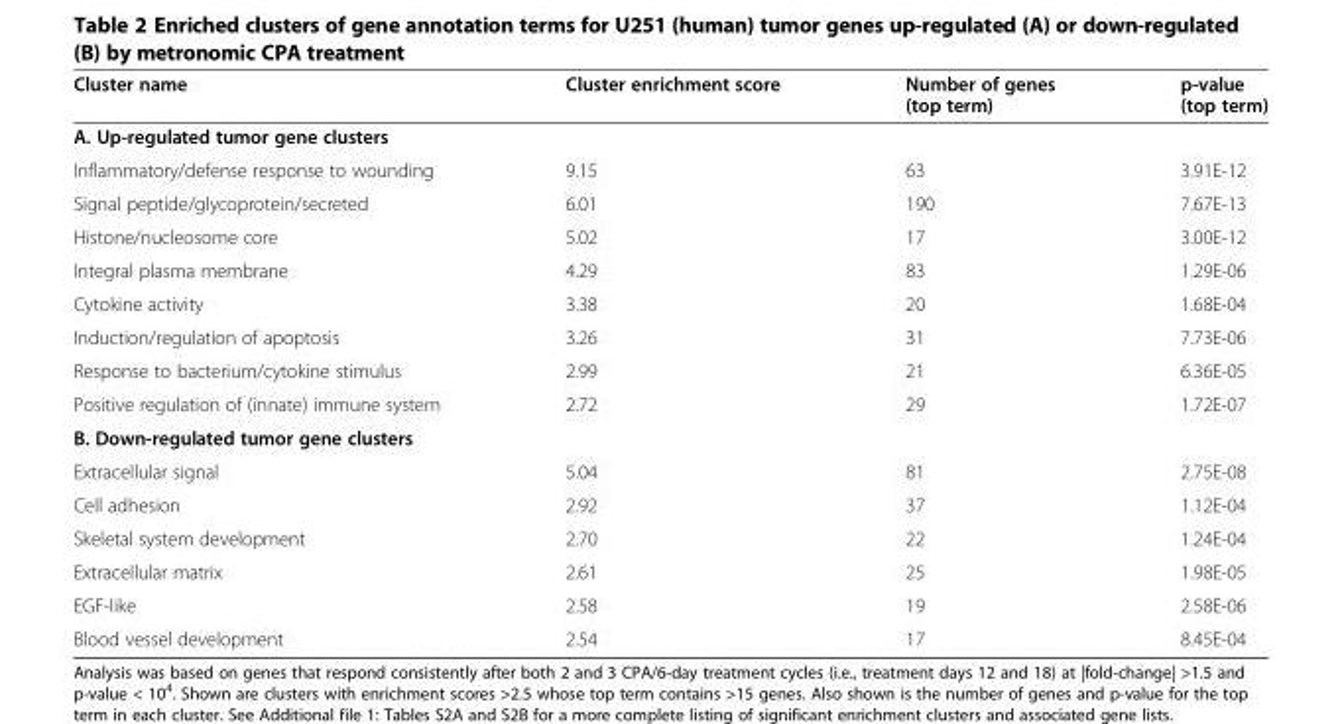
<table><thead><tr><td>Cluster name</td><td>Cluster enrichment score</td><td>Number of genes (top term)</td><td>p-value (top term)</td></tr></thead><tbody><tr><td colspan="4">A. Up-regulated tumor gene clusters</td></tr><tr><td>Inflammatory/defense response to wounding</td><td>9.15</td><td>63</td><td>3.91E-12</td></tr><tr><td>Signal peptide/glycoprotein/secreted</td><td>6.01</td><td>190</td><td>7.67E-13</td></tr><tr><td>Histone/nucleosome core</td><td>5.02</td><td>17</td><td>3.00E-12</td></tr><tr><td>Integral plasma membrane</td><td>4.29</td><td>83</td><td>1.29E-06</td></tr><tr><td>Cytokine activity</td><td>3.38</td><td>20</td><td>1.68E-04</td></tr><tr><td>Induction/regulation of apoptosis</td><td>3.26</td><td>31</td><td>7.73E-06</td></tr><tr><td>Response to bacterium/cytokine stimulus</td><td>2.99</td><td>21</td><td>6.36E-05</td></tr><tr><td>Positive regulation of (innate) immune system</td><td>2.72</td><td>29</td><td>1.72E-07</td></tr><tr><td colspan="4">B. Down-regulated tumor gene clusters</td></tr><tr><td>Extracellular signal</td><td>5.04</td><td>81</td><td>2.75E-08</td></tr><tr><td>Cell adhesion</td><td>2.92</td><td>37</td><td>1.12E-04</td></tr><tr><td>Skeletal system development</td><td>2.70</td><td>22</td><td>1.24E-04</td></tr><tr><td>Extracellular matrix</td><td>2.61</td><td>25</td><td>1.98E-05</td></tr><tr><td>EGF-like</td><td>2.58</td><td>19</td><td>2.58E-06</td></tr><tr><td>Blood vessel development</td><td>2.54</td><td>17</td><td>8.45E-04</td></tr></tbody></table>